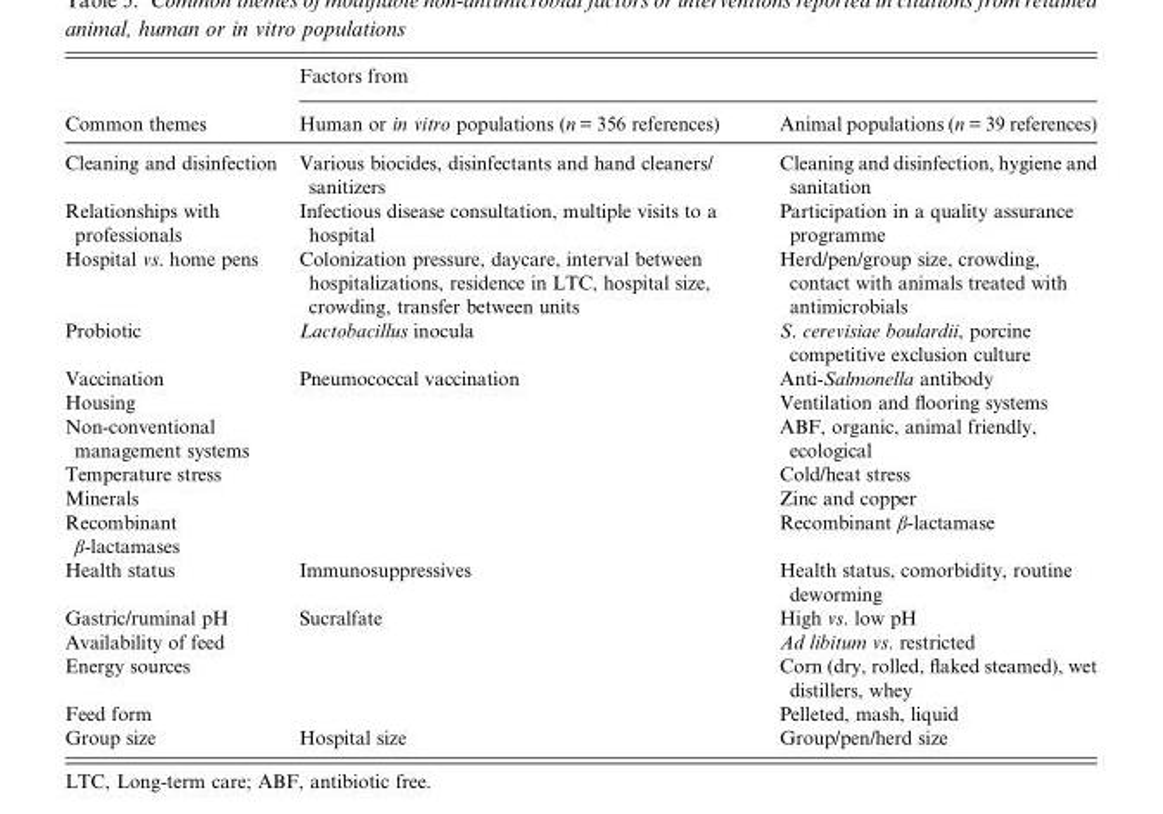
<table><thead><tr><td rowspan="2">Common themes</td><td colspan="2">Factors from</td></tr><tr><td>Human or in vitro populations (n = 356 references)</td><td>Animal populations (n = 39 references)</td></tr></thead><tbody><tr><td>Cleaning and disinfection</td><td>Various biocides, disinfectants and hand cleaners/ sanitizers</td><td>Cleaning and disinfection, hygiene and sanitation</td></tr><tr><td>Relationships with professionals</td><td>Infectious disease consultation, multiple visits to a hospital</td><td>Participation in a quality assurance programme</td></tr><tr><td>Hospital vs. home pens</td><td>Colonization pressure, daycare, interval between hospitalizations, residence in LTC, hospital size, crowding, transfer between units</td><td>Herd/pen/group size, crowding, contact with animals treated with antimicrobials</td></tr><tr><td>Probiotic</td><td>Lactobacillus inocula</td><td>S. cerevisiae boulardii, porcine competitive exclusion culture</td></tr><tr><td>Vaccination</td><td>Pneumococcal vaccination</td><td>Anti-Salmonella antibody</td></tr><tr><td>Housing</td><td></td><td>Ventilation and flooring systems</td></tr><tr><td>Non-conventional management systems</td><td></td><td>ABF, organic, animal friendly, ecological</td></tr><tr><td>Temperature stress</td><td></td><td>Cold/heat stress</td></tr><tr><td>Minerals</td><td></td><td>Zinc and copper</td></tr><tr><td>Recombinant β-lactamases</td><td></td><td>Recombinant β-lactamase</td></tr><tr><td>Health status</td><td>Immunosuppressives</td><td>Health status, comorbidity, routine deworming</td></tr><tr><td>Gastric/ruminal pH</td><td>Sucralfate</td><td>High vs. low pH</td></tr><tr><td>Availability of feed</td><td></td><td>Ad libitum vs. restricted</td></tr><tr><td>Energy sources</td><td></td><td>Corn (dry, rolled, flaked steamed), wet distillers, whey</td></tr><tr><td>Feed form</td><td></td><td>Pelleted, mash, liquid</td></tr><tr><td>Group size</td><td>Hospital size</td><td>Group/pen/herd size</td></tr></tbody></table>